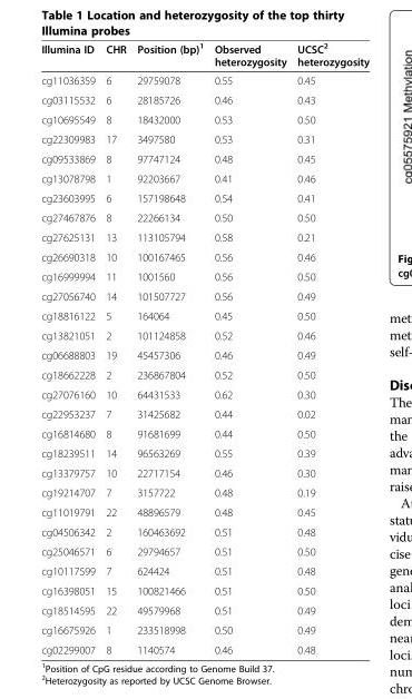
<table><thead><tr><td>Illumina ID</td><td>CHR</td><td>Position (bp)<sup>1</sup></td><td>Observed heterozygosity</td><td>UCSC<sup>2</sup> heterozygosity</td></tr></thead><tbody><tr><td>cg11036359</td><td>6</td><td>29759078</td><td>0.55</td><td>0.45</td></tr><tr><td>cg03115532</td><td>6</td><td>28185726</td><td>0.46</td><td>0.43</td></tr><tr><td>cg10695549</td><td>8</td><td>18432000</td><td>0.53</td><td>0.50</td></tr><tr><td>cg22309983</td><td>17</td><td>3497580</td><td>0.53</td><td>0.31</td></tr><tr><td>cg09533869</td><td>8</td><td>97747124</td><td>0.48</td><td>0.45</td></tr><tr><td>cg13078798</td><td>1</td><td>92203667</td><td>0.41</td><td>0.46</td></tr><tr><td>cg23603995</td><td>6</td><td>157198648</td><td>0.54</td><td>0.41</td></tr><tr><td>cg27467876</td><td>8</td><td>22266134</td><td>0.50</td><td>0.50</td></tr><tr><td>cg27625131</td><td>13</td><td>113105794</td><td>0.58</td><td>0.21</td></tr><tr><td>cg26690318</td><td>10</td><td>100167465</td><td>0.56</td><td>0.46</td></tr><tr><td>cg16999994</td><td>11</td><td>1001560</td><td>0.56</td><td>0.50</td></tr><tr><td>cg27056740</td><td>14</td><td>101507727</td><td>0.56</td><td>0.49</td></tr><tr><td>cg18816122</td><td>5</td><td>164064</td><td>0.45</td><td>0.50</td></tr><tr><td>cg13821051</td><td>2</td><td>101124858</td><td>0.52</td><td>0.46</td></tr><tr><td>cg06688803</td><td>19</td><td>45457306</td><td>0.46</td><td>0.49</td></tr><tr><td>cg18662228</td><td>2</td><td>236867804</td><td>0.52</td><td>0.50</td></tr><tr><td>cg27076160</td><td>10</td><td>64431533</td><td>0.62</td><td>0.30</td></tr><tr><td>cg22953237</td><td>7</td><td>31425682</td><td>0.44</td><td>0.02</td></tr><tr><td>cg16814680</td><td>8</td><td>91681699</td><td>0.44</td><td>0.50</td></tr><tr><td>cg18239511</td><td>14</td><td>96563269</td><td>0.55</td><td>0.39</td></tr><tr><td>cg13379757</td><td>10</td><td>22717154</td><td>0.46</td><td>0.30</td></tr><tr><td>cg19214707</td><td>7</td><td>3157722</td><td>0.48</td><td>0.19</td></tr><tr><td>cg11019791</td><td>22</td><td>48896579</td><td>0.48</td><td>0.45</td></tr><tr><td>cg04506342</td><td>2</td><td>160463692</td><td>0.51</td><td>0.48</td></tr><tr><td>cg25046571</td><td>6</td><td>29794657</td><td>0.51</td><td>0.50</td></tr><tr><td>cg10117599</td><td>7</td><td>624424</td><td>0.51</td><td>0.48</td></tr><tr><td>cg16398051</td><td>15</td><td>100821466</td><td>0.51</td><td>0.50</td></tr><tr><td>cg18514595</td><td>22</td><td>49579968</td><td>0.51</td><td>0.49</td></tr><tr><td>cg16675926</td><td>1</td><td>233518998</td><td>0.50</td><td>0.49</td></tr><tr><td>cg02299007</td><td>8</td><td>1140574</td><td>0.46</td><td>0.48</td></tr></tbody></table>